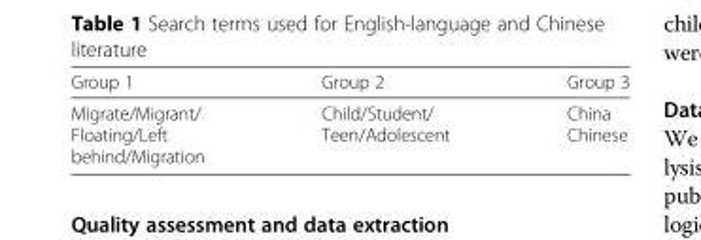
<table><thead><tr><td>Group 1</td><td>Group 2</td><td>Group 3</td></tr></thead><tbody><tr><td>Migrate/Migrant/ Floating/Left behind/Migration</td><td>Child/Student/ Teen/Adolescent</td><td>China Chinese</td></tr></tbody></table>